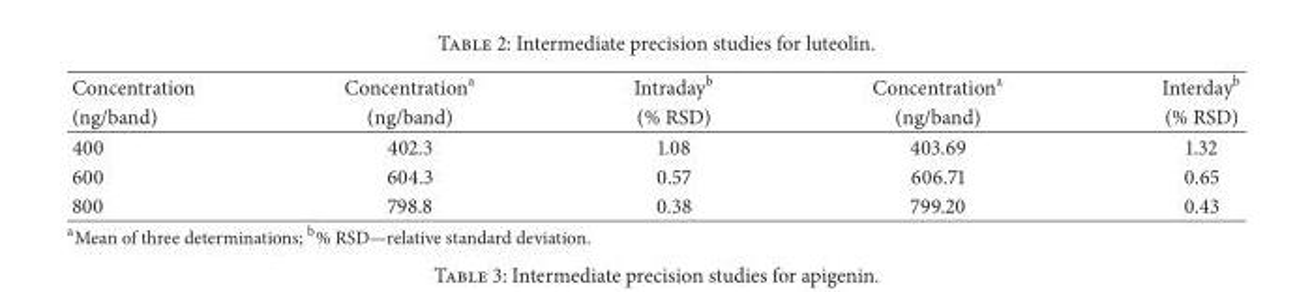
<table><thead><tr><td rowspan="2">Concentration (ng/band)</td><td rowspan="2">Concentration<sup>a</sup> (ng/band)</td><td rowspan="2">Intraday<sup>b</sup> (% RSD)</td><td rowspan="2">Concentration<sup>a</sup> (ng/band)</td><td rowspan="2">Interday<sup>b</sup> (% RSD)</td></tr><tr></tr></thead><tbody><tr><td>400</td><td>402.3</td><td>1.08</td><td>403.69</td><td>1.32</td></tr><tr><td>600</td><td>604.3</td><td>0.57</td><td>606.71</td><td>0.65</td></tr><tr><td>800</td><td>798.8</td><td>0.38</td><td>799.20</td><td>0.43</td></tr></tbody></table>